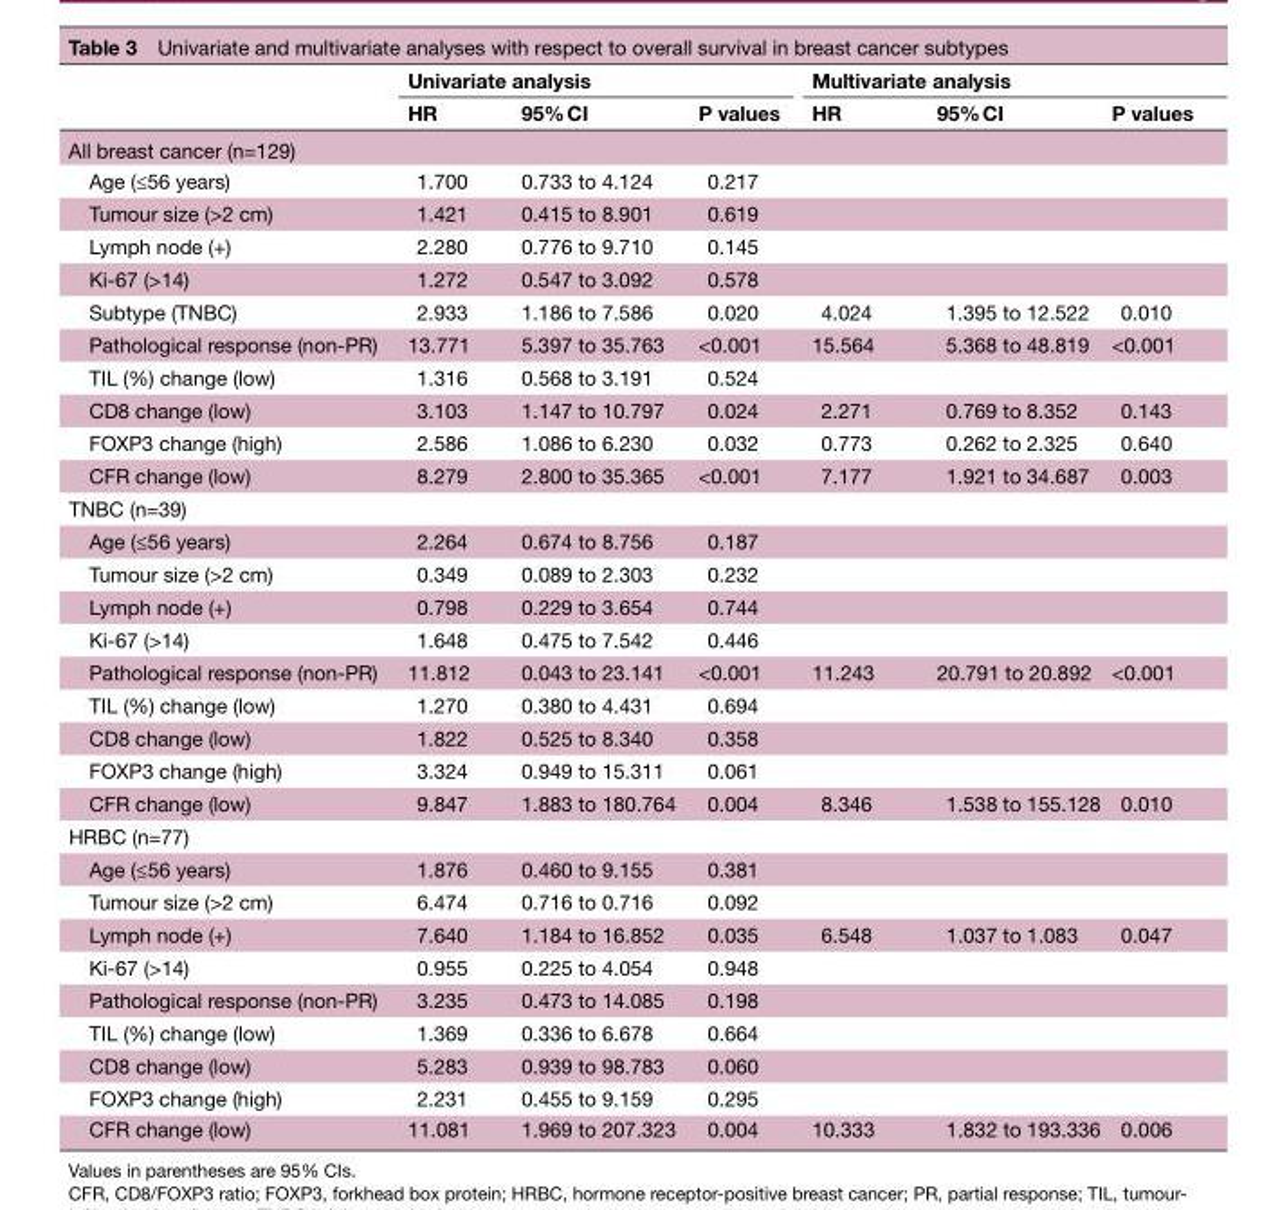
<table><thead><tr><td rowspan="2"></td><td colspan="3">Univariate analysis</td><td colspan="3">Multivariate analysis</td></tr><tr><td>HR</td><td>95% CI</td><td>P values</td><td>HR</td><td>95% CI</td><td>P values</td></tr></thead><tbody><tr><td colspan="7">All breast cancer (n=129)</td></tr><tr><td>Age (≤56 years)</td><td>1.700</td><td>0.733 to 4.124</td><td>0.217</td><td></td><td></td><td></td></tr><tr><td>Tumour size (&gt;2 cm)</td><td>1.421</td><td>0.415 to 8.901</td><td>0.619</td><td></td><td></td><td></td></tr><tr><td>Lymph node (+)</td><td>2.280</td><td>0.776 to 9.710</td><td>0.145</td><td></td><td></td><td></td></tr><tr><td>Ki-67 (&gt;14)</td><td>1.272</td><td>0.547 to 3.092</td><td>0.578</td><td></td><td></td><td></td></tr><tr><td>Subtype (TNBC)</td><td>2.933</td><td>1.186 to 7.586</td><td>0.020</td><td>4.024</td><td>1.395 to 12.522</td><td>0.010</td></tr><tr><td>Pathological response (non-PR)</td><td>13.771</td><td>5.397 to 35.763</td><td>&lt;0.001</td><td>15.564</td><td>5.368 to 48.819</td><td>&lt;0.001</td></tr><tr><td>TIL (%) change (low)</td><td>1.316</td><td>0.568 to 3.191</td><td>0.524</td><td></td><td></td><td></td></tr><tr><td>CD8 change (low)</td><td>3.103</td><td>1.147 to 10.797</td><td>0.024</td><td>2.271</td><td>0.769 to 8.352</td><td>0.143</td></tr><tr><td>FOXP3 change (high)</td><td>2.586</td><td>1.086 to 6.230</td><td>0.032</td><td>0.773</td><td>0.262 to 2.325</td><td>0.640</td></tr><tr><td>CFR change (low)</td><td>8.279</td><td>2.800 to 35.365</td><td>&lt;0.001</td><td>7.177</td><td>1.921 to 34.687</td><td>0.003</td></tr><tr><td colspan="7">TNBC (n=39)</td></tr><tr><td>Age (≤56 years)</td><td>2.264</td><td>0.674 to 8.756</td><td>0.187</td><td></td><td></td><td></td></tr><tr><td>Tumour size (&gt;2 cm)</td><td>0.349</td><td>0.089 to 2.303</td><td>0.232</td><td></td><td></td><td></td></tr><tr><td>Lymph node (+)</td><td>0.798</td><td>0.229 to 3.654</td><td>0.744</td><td></td><td></td><td></td></tr><tr><td>Ki-67 (&gt;14)</td><td>1.648</td><td>0.475 to 7.542</td><td>0.446</td><td></td><td></td><td></td></tr><tr><td>Pathological response (non-PR)</td><td>11.812</td><td>0.043 to 23.141</td><td>&lt;0.001</td><td>11.243</td><td>20.791 to 20.892</td><td>&lt;0.001</td></tr><tr><td>TIL (%) change (low)</td><td>1.270</td><td>0.380 to 4.431</td><td>0.694</td><td></td><td></td><td></td></tr><tr><td>CD8 change (low)</td><td>1.822</td><td>0.525 to 8.340</td><td>0.358</td><td></td><td></td><td></td></tr><tr><td>FOXP3 change (high)</td><td>3.324</td><td>0.949 to 15.311</td><td>0.061</td><td></td><td></td><td></td></tr><tr><td>CFR change (low)</td><td>9.847</td><td>1.883 to 180.764</td><td>0.004</td><td>8.346</td><td>1.538 to 155.128</td><td>0.010</td></tr><tr><td colspan="7">HRBC (n=77)</td></tr><tr><td>Age (≤56 years)</td><td>1.876</td><td>0.460 to 9.155</td><td>0.381</td><td></td><td></td><td></td></tr><tr><td>Tumour size (&gt;2 cm)</td><td>6.474</td><td>0.716 to 0.716</td><td>0.092</td><td></td><td></td><td></td></tr><tr><td>Lymph node (+)</td><td>7.640</td><td>1.184 to 16.852</td><td>0.035</td><td>6.548</td><td>1.037 to 1.083</td><td>0.047</td></tr><tr><td>Ki-67 (&gt;14)</td><td>0.955</td><td>0.225 to 4.054</td><td>0.948</td><td></td><td></td><td></td></tr><tr><td>Pathological response (non-PR)</td><td>3.235</td><td>0.473 to 14.085</td><td>0.198</td><td></td><td></td><td></td></tr><tr><td>TIL (%) change (low)</td><td>1.369</td><td>0.336 to 6.678</td><td>0.664</td><td></td><td></td><td></td></tr><tr><td>CD8 change (low)</td><td>5.283</td><td>0.939 to 98.783</td><td>0.060</td><td></td><td></td><td></td></tr><tr><td>FOXP3 change (high)</td><td>2.231</td><td>0.455 to 9.159</td><td>0.295</td><td></td><td></td><td></td></tr><tr><td>CFR change (low)</td><td>11.081</td><td>1.969 to 207.323</td><td>0.004</td><td>10.333</td><td>1.832 to 193.336</td><td>0.006</td></tr></tbody></table>